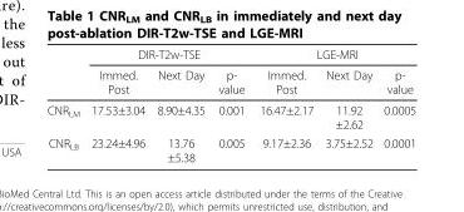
<table><thead><tr><td rowspan="2"></td><td colspan="3">DIR-T2w-TSE</td><td colspan="3">LGE-MRI</td></tr><tr><td>Immed. Post</td><td>Next Day</td><td>p- value</td><td>Immed. Post</td><td>Next Day</td><td>p- value</td></tr></thead><tbody><tr><td>CNR<sub>LM</sub></td><td>17.53±3.04</td><td>8.90±4.35</td><td>0.001</td><td>16.47±2.17</td><td>11.92 ±2.62</td><td>0.0005</td></tr><tr><td>CNR<sub>LB</sub></td><td>23.24±4.96</td><td>13.76 ±5.38</td><td>0.005</td><td>9.17±2.36</td><td>3.75±2.52</td><td>0.0001</td></tr></tbody></table>